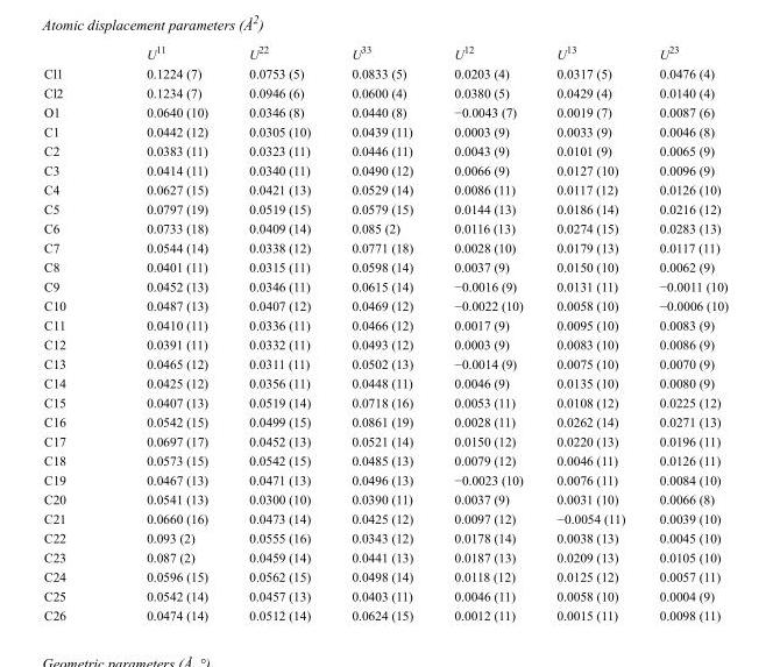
<table><thead><tr><td></td><td>U<sup>11</sup></td><td>U<sup>22</sup></td><td>U<sup>33</sup></td><td>U<sup>12</sup></td><td>U<sup>13</sup></td><td>U<sup>23</sup></td></tr></thead><tbody><tr><td>Cl1</td><td>0.1224 (7)</td><td>0.0753 (5)</td><td>0.0833 (5)</td><td>0.0203 (4)</td><td>0.0317 (5)</td><td>0.0476 (4)</td></tr><tr><td>Cl2</td><td>0.1234 (7)</td><td>0.0946 (6)</td><td>0.0600 (4)</td><td>0.0380 (5)</td><td>0.0429 (4)</td><td>0.0140 (4)</td></tr><tr><td>O1</td><td>0.0640 (10)</td><td>0.0346 (8)</td><td>0.0440 (8)</td><td>−0.0043 (7)</td><td>0.0019 (7)</td><td>0.0087 (6)</td></tr><tr><td>C1</td><td>0.0442 (12)</td><td>0.0305 (10)</td><td>0.0439 (11)</td><td>0.0003 (9)</td><td>0.0033 (9)</td><td>0.0046 (8)</td></tr><tr><td>C2</td><td>0.0383 (11)</td><td>0.0323 (11)</td><td>0.0446 (11)</td><td>0.0043 (9)</td><td>0.0101 (9)</td><td>0.0065 (9)</td></tr><tr><td>C3</td><td>0.0414 (11)</td><td>0.0340 (11)</td><td>0.0490 (12)</td><td>0.0066 (9)</td><td>0.0127 (10)</td><td>0.0096 (9)</td></tr><tr><td>C4</td><td>0.0627 (15)</td><td>0.0421 (13)</td><td>0.0529 (14)</td><td>0.0086 (11)</td><td>0.0117 (12)</td><td>0.0126 (10)</td></tr><tr><td>C5</td><td>0.0797 (19)</td><td>0.0519 (15)</td><td>0.0579 (15)</td><td>0.0144 (13)</td><td>0.0186 (14)</td><td>0.0216 (12)</td></tr><tr><td>C6</td><td>0.0733 (18)</td><td>0.0409 (14)</td><td>0.085 (2)</td><td>0.0116 (13)</td><td>0.0274 (15)</td><td>0.0283 (13)</td></tr><tr><td>C7</td><td>0.0544 (14)</td><td>0.0338 (12)</td><td>0.0771 (18)</td><td>0.0028 (10)</td><td>0.0179 (13)</td><td>0.0117 (11)</td></tr><tr><td>C8</td><td>0.0401 (11)</td><td>0.0315 (11)</td><td>0.0598 (14)</td><td>0.0037 (9)</td><td>0.0150 (10)</td><td>0.0062 (9)</td></tr><tr><td>C9</td><td>0.0452 (13)</td><td>0.0346 (11)</td><td>0.0615 (14)</td><td>−0.0016 (9)</td><td>0.0131 (11)</td><td>−0.0011 (10)</td></tr><tr><td>C10</td><td>0.0487 (13)</td><td>0.0407 (12)</td><td>0.0469 (12)</td><td>−0.0022 (10)</td><td>0.0058 (10)</td><td>−0.0006 (10)</td></tr><tr><td>C11</td><td>0.0410 (11)</td><td>0.0336 (11)</td><td>0.0466 (12)</td><td>0.0017 (9)</td><td>0.0095 (10)</td><td>0.0083 (9)</td></tr><tr><td>C12</td><td>0.0391 (11)</td><td>0.0332 (11)</td><td>0.0493 (12)</td><td>0.0003 (9)</td><td>0.0083 (10)</td><td>0.0086 (9)</td></tr><tr><td>C13</td><td>0.0465 (12)</td><td>0.0311 (11)</td><td>0.0502 (13)</td><td>−0.0014 (9)</td><td>0.0075 (10)</td><td>0.0070 (9)</td></tr><tr><td>C14</td><td>0.0425 (12)</td><td>0.0356 (11)</td><td>0.0448 (11)</td><td>0.0046 (9)</td><td>0.0135 (10)</td><td>0.0080 (9)</td></tr><tr><td>C15</td><td>0.0407 (13)</td><td>0.0519 (14)</td><td>0.0718 (16)</td><td>0.0053 (11)</td><td>0.0108 (12)</td><td>0.0225 (12)</td></tr><tr><td>C16</td><td>0.0542 (15)</td><td>0.0499 (15)</td><td>0.0861 (19)</td><td>0.0028 (11)</td><td>0.0262 (14)</td><td>0.0271 (13)</td></tr><tr><td>C17</td><td>0.0697 (17)</td><td>0.0452 (13)</td><td>0.0521 (14)</td><td>0.0150 (12)</td><td>0.0220 (13)</td><td>0.0196 (11)</td></tr><tr><td>C18</td><td>0.0573 (15)</td><td>0.0542 (15)</td><td>0.0485 (13)</td><td>0.0079 (12)</td><td>0.0046 (11)</td><td>0.0126 (11)</td></tr><tr><td>C19</td><td>0.0467 (13)</td><td>0.0471 (13)</td><td>0.0496 (13)</td><td>−0.0023 (10)</td><td>0.0076 (11)</td><td>0.0084 (10)</td></tr><tr><td>C20</td><td>0.0541 (13)</td><td>0.0300 (10)</td><td>0.0390 (11)</td><td>0.0037 (9)</td><td>0.0031 (10)</td><td>0.0066 (8)</td></tr><tr><td>C21</td><td>0.0660 (16)</td><td>0.0473 (14)</td><td>0.0425 (12)</td><td>0.0097 (12)</td><td>−0.0054 (11)</td><td>0.0039 (10)</td></tr><tr><td>C22</td><td>0.093 (2)</td><td>0.0555 (16)</td><td>0.0343 (12)</td><td>0.0178 (14)</td><td>0.0038 (13)</td><td>0.0045 (10)</td></tr><tr><td>C23</td><td>0.087 (2)</td><td>0.0459 (14)</td><td>0.0441 (13)</td><td>0.0187 (13)</td><td>0.0209 (13)</td><td>0.0105 (10)</td></tr><tr><td>C24</td><td>0.0596 (15)</td><td>0.0562 (15)</td><td>0.0498 (14)</td><td>0.0118 (12)</td><td>0.0125 (12)</td><td>0.0057 (11)</td></tr><tr><td>C25</td><td>0.0542 (14)</td><td>0.0457 (13)</td><td>0.0403 (11)</td><td>0.0046 (11)</td><td>0.0058 (10)</td><td>0.0004 (9)</td></tr><tr><td>C26</td><td>0.0474 (14)</td><td>0.0512 (14)</td><td>0.0624 (15)</td><td>0.0012 (11)</td><td>0.0015 (11)</td><td>0.0098 (11)</td></tr></tbody></table>